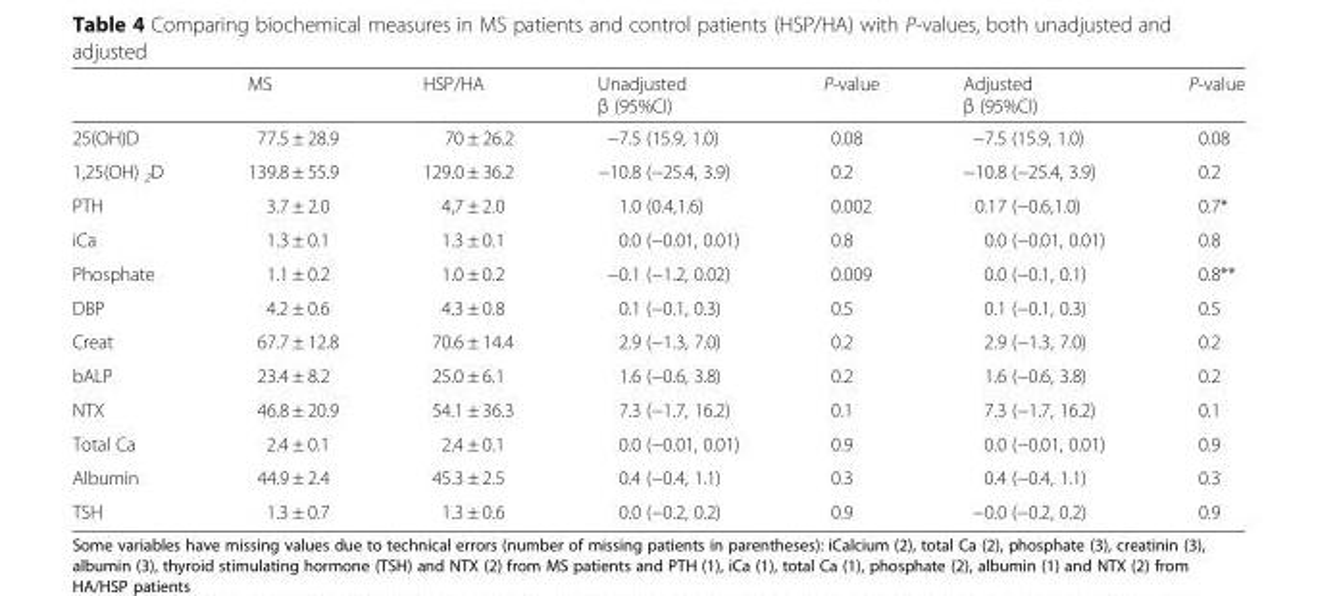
<table><thead><tr><td></td><td>MS</td><td>HSP/HA</td><td>Unadjusted β (95%CI)</td><td>P-value</td><td>Adjusted β (95%CI)</td><td>P-value</td></tr></thead><tbody><tr><td>25(OH)D</td><td>77.5 ± 28.9</td><td>70 ± 26.2</td><td>−7.5 (15.9, 1.0)</td><td>0.08</td><td>−7.5 (15.9, 1.0)</td><td>0.08</td></tr><tr><td>1,25(OH) <sub>2</sub>D</td><td>139.8 ± 55.9</td><td>129.0 ± 36.2</td><td>−10.8 (−25.4, 3.9)</td><td>0.2</td><td>−10.8 (−25.4, 3.9)</td><td>0.2</td></tr><tr><td>PTH</td><td>3.7 ± 2.0</td><td>4,7 ± 2.0</td><td>1.0 (0.4,1.6)</td><td>0.002</td><td>0.17 (−0.6,1.0)</td><td>0.7*</td></tr><tr><td>iCa</td><td>1.3 ± 0.1</td><td>1.3 ± 0.1</td><td>0.0 (−0.01, 0.01)</td><td>0.8</td><td>0.0 (−0.01, 0.01)</td><td>0.8</td></tr><tr><td>Phosphate</td><td>1.1 ± 0.2</td><td>1.0 ± 0.2</td><td>−0.1 (−1.2, 0.02)</td><td>0.009</td><td>0.0 (−0.1, 0.1)</td><td>0.8**</td></tr><tr><td>DBP</td><td>4.2 ± 0.6</td><td>4.3 ± 0.8</td><td>0.1 (−0.1, 0.3)</td><td>0.5</td><td>0.1 (−0.1, 0.3)</td><td>0.5</td></tr><tr><td>Creat</td><td>67.7 ± 12.8</td><td>70.6 ± 14.4</td><td>2.9 (−1.3, 7.0)</td><td>0.2</td><td>2.9 (−1.3, 7.0)</td><td>0.2</td></tr><tr><td>bALP</td><td>23.4 ± 8.2</td><td>25.0 ± 6.1</td><td>1.6 (−0.6, 3.8)</td><td>0.2</td><td>1.6 (−0.6, 3.8)</td><td>0.2</td></tr><tr><td>NTX</td><td>46.8 ± 20.9</td><td>54.1 ± 36.3</td><td>7.3 (−1.7, 16.2)</td><td>0.1</td><td>7.3 (−1.7, 16.2)</td><td>0.1</td></tr><tr><td>Total Ca</td><td>2.4 ± 0.1</td><td>2.4 ± 0.1</td><td>0.0 (−0.01, 0.01)</td><td>0.9</td><td>0.0 (−0.01, 0.01)</td><td>0.9</td></tr><tr><td>Albumin</td><td>44.9 ± 2.4</td><td>45.3 ± 2.5</td><td>0.4 (−0.4, 1.1)</td><td>0.3</td><td>0.4 (−0.4, 1.1)</td><td>0.3</td></tr><tr><td>TSH</td><td>1.3 ± 0.7</td><td>1.3 ± 0.6</td><td>0.0 (−0.2, 0.2)</td><td>0.9</td><td>−0.0 (−0.2, 0.2)</td><td>0.9</td></tr></tbody></table>